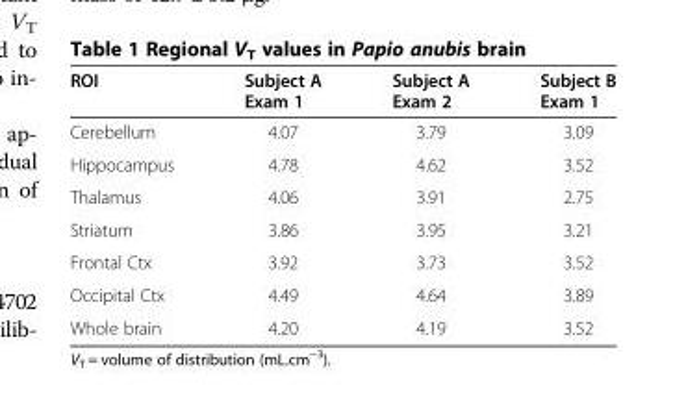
<table><thead><tr><td>ROI</td><td>Subject A Exam 1</td><td>Subject A Exam 2</td><td>Subject B Exam 1</td></tr></thead><tbody><tr><td>Cerebellum</td><td>4.07</td><td>3.79</td><td>3.09</td></tr><tr><td>Hippocampus</td><td>4.78</td><td>4.62</td><td>3.52</td></tr><tr><td>Thalamus</td><td>4.06</td><td>3.91</td><td>2.75</td></tr><tr><td>Striatum</td><td>3.86</td><td>3.95</td><td>3.21</td></tr><tr><td>Frontal Ctx</td><td>3.92</td><td>3.73</td><td>3.52</td></tr><tr><td>Occipital Ctx</td><td>4.49</td><td>4.64</td><td>3.89</td></tr><tr><td>Whole brain</td><td>4.20</td><td>4.19</td><td>3.52</td></tr></tbody></table>